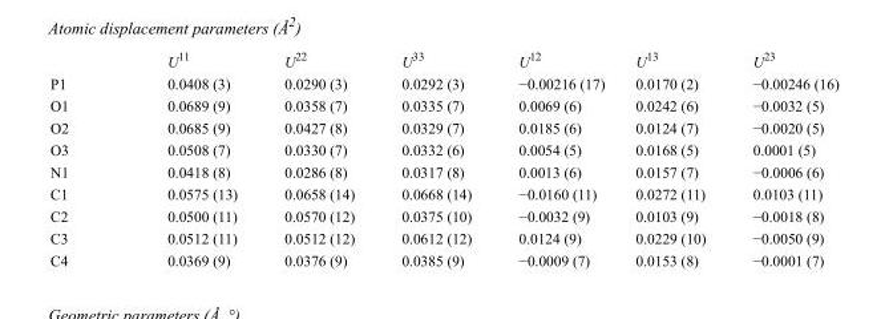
<table><thead><tr><td></td><td>U<sup>11</sup></td><td>U<sup>22</sup></td><td>U<sup>33</sup></td><td>U<sup>12</sup></td><td>U<sup>13</sup></td><td>U<sup>23</sup></td></tr></thead><tbody><tr><td>P1</td><td>0.0408 (3)</td><td>0.0290 (3)</td><td>0.0292 (3)</td><td>−0.00216 (17)</td><td>0.0170 (2)</td><td>−0.00246 (16)</td></tr><tr><td>O1</td><td>0.0689 (9)</td><td>0.0358 (7)</td><td>0.0335 (7)</td><td>0.0069 (6)</td><td>0.0242 (6)</td><td>−0.0032 (5)</td></tr><tr><td>O2</td><td>0.0685 (9)</td><td>0.0427 (8)</td><td>0.0329 (7)</td><td>0.0185 (6)</td><td>0.0124 (7)</td><td>−0.0020 (5)</td></tr><tr><td>O3</td><td>0.0508 (7)</td><td>0.0330 (7)</td><td>0.0332 (6)</td><td>0.0054 (5)</td><td>0.0168 (5)</td><td>0.0001 (5)</td></tr><tr><td>N1</td><td>0.0418 (8)</td><td>0.0286 (8)</td><td>0.0317 (8)</td><td>0.0013 (6)</td><td>0.0157 (7)</td><td>−0.0006 (6)</td></tr><tr><td>C1</td><td>0.0575 (13)</td><td>0.0658 (14)</td><td>0.0668 (14)</td><td>−0.0160 (11)</td><td>0.0272 (11)</td><td>0.0103 (11)</td></tr><tr><td>C2</td><td>0.0500 (11)</td><td>0.0570 (12)</td><td>0.0375 (10)</td><td>−0.0032 (9)</td><td>0.0103 (9)</td><td>−0.0018 (8)</td></tr><tr><td>C3</td><td>0.0512 (11)</td><td>0.0512 (12)</td><td>0.0612 (12)</td><td>0.0124 (9)</td><td>0.0229 (10)</td><td>−0.0050 (9)</td></tr><tr><td>C4</td><td>0.0369 (9)</td><td>0.0376 (9)</td><td>0.0385 (9)</td><td>−0.0009 (7)</td><td>0.0153 (8)</td><td>−0.0001 (7)</td></tr></tbody></table>